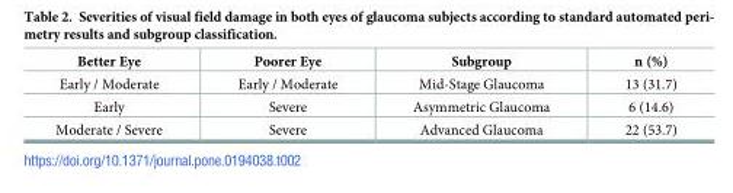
<table><thead><tr><td>Better Eye</td><td>Poorer Eye</td><td>Subgroup</td><td>n (%)</td></tr></thead><tbody><tr><td>Early / Moderate</td><td>Early / Moderate</td><td>Mid-Stage Glaucoma</td><td>13 (31.7)</td></tr><tr><td>Early</td><td>Severe</td><td>Asymmetric Glaucoma</td><td>6 (14.6)</td></tr><tr><td>Moderate / Severe</td><td>Severe</td><td>Advanced Glaucoma</td><td>22 (53.7)</td></tr></tbody></table>